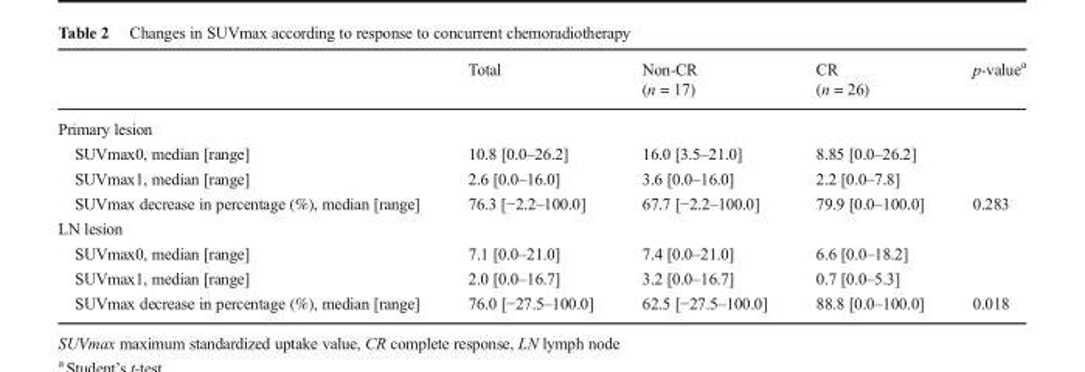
<table><thead><tr><td></td><td>Total</td><td>Non-CR (n = 17)</td><td>CR (n = 26)</td><td>p-value<sup>a</sup></td></tr></thead><tbody><tr><td colspan="5">Primary lesion</td></tr><tr><td>SUVmax0, median [range]</td><td>10.8 [0.0–26.2]</td><td>16.0 [3.5–21.0]</td><td>8.85 [0.0–26.2]</td><td></td></tr><tr><td>SUVmax1, median [range]</td><td>2.6 [0.0–16.0]</td><td>3.6 [0.0–16.0]</td><td>2.2 [0.0–7.8]</td><td></td></tr><tr><td>SUVmax decrease in percentage (%), median [range]</td><td>76.3 [−2.2–100.0]</td><td>67.7 [−2.2–100.0]</td><td>79.9 [0.0–100.0]</td><td>0.283</td></tr><tr><td colspan="5">LN lesion</td></tr><tr><td>SUVmax0, median [range]</td><td>7.1 [0.0–21.0]</td><td>7.4 [0.0–21.0]</td><td>6.6 [0.0–18.2]</td><td></td></tr><tr><td>SUVmax1, median [range]</td><td>2.0 [0.0–16.7]</td><td>3.2 [0.0–16.7]</td><td>0.7 [0.0–5.3]</td><td></td></tr><tr><td>SUVmax decrease in percentage (%), median [range]</td><td>76.0 [−27.5–100.0]</td><td>62.5 [−27.5–100.0]</td><td>88.8 [0.0–100.0]</td><td>0.018</td></tr></tbody></table>